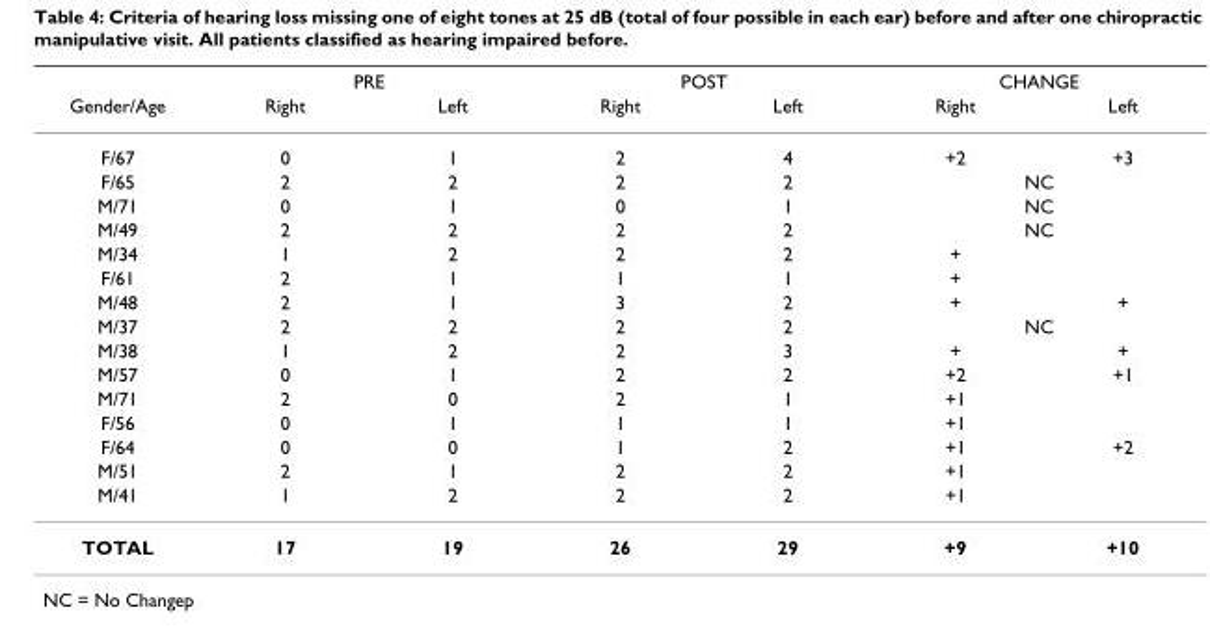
<table><thead><tr><td rowspan="2">Gender/Age</td><td colspan="2">PRE</td><td colspan="2">POST</td><td colspan="2">CHANGE</td></tr><tr><td>Right</td><td>Left</td><td>Right</td><td>Left</td><td>Right</td><td>Left</td></tr></thead><tbody><tr><td>F/67</td><td>0</td><td>1</td><td>2</td><td>4</td><td>+2</td><td>+3</td></tr><tr><td>F/65</td><td>2</td><td>2</td><td>2</td><td>2</td><td colspan="2">NC</td></tr><tr><td>M/71</td><td>0</td><td>1</td><td>0</td><td>1</td><td colspan="2">NC</td></tr><tr><td>M/49</td><td>2</td><td>2</td><td>2</td><td>2</td><td colspan="2">NC</td></tr><tr><td>M/34</td><td>1</td><td>2</td><td>2</td><td>2</td><td>+</td><td></td></tr><tr><td>F/61</td><td>2</td><td>1</td><td>1</td><td>1</td><td>+</td><td></td></tr><tr><td>M/48</td><td>2</td><td>1</td><td>3</td><td>2</td><td>+</td><td>+</td></tr><tr><td>M/37</td><td>2</td><td>2</td><td>2</td><td>2</td><td colspan="2">NC</td></tr><tr><td>M/38</td><td>1</td><td>2</td><td>2</td><td>3</td><td>+</td><td>+</td></tr><tr><td>M/57</td><td>0</td><td>1</td><td>2</td><td>2</td><td>+2</td><td>+1</td></tr><tr><td>M/71</td><td>2</td><td>0</td><td>2</td><td>1</td><td>+1</td><td></td></tr><tr><td>F/56</td><td>0</td><td>1</td><td>1</td><td>1</td><td>+1</td><td></td></tr><tr><td>F/64</td><td>0</td><td>0</td><td>1</td><td>2</td><td>+1</td><td>+2</td></tr><tr><td>M/51</td><td>2</td><td>1</td><td>2</td><td>2</td><td>+1</td><td></td></tr><tr><td>M/41</td><td>1</td><td>2</td><td>2</td><td>2</td><td>+1</td><td></td></tr><tr><td>TOTAL</td><td>17</td><td>19</td><td>26</td><td>29</td><td>+9</td><td>+10</td></tr></tbody></table>